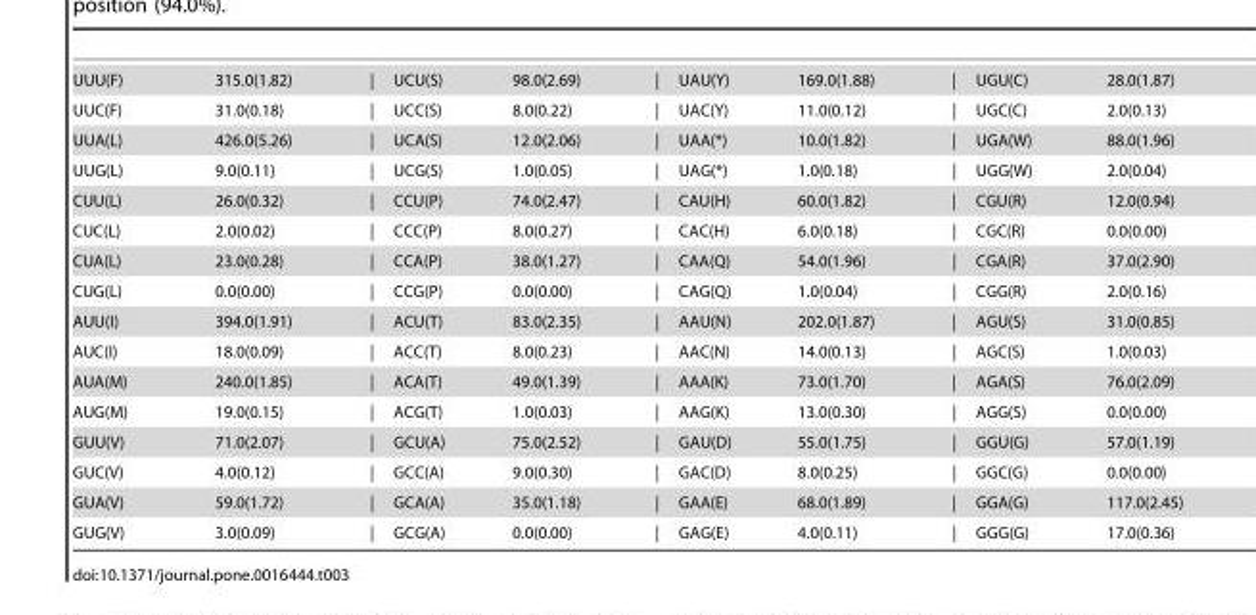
<table><tbody><tr><td>UUU(F)</td><td>315.0(1.82)</td><td>|</td><td>UCU(S)</td><td>98.0(2.69)</td><td>|</td><td>UAU(Y)</td><td>169.0(1.88)</td><td>|</td><td>UGU(C)</td><td>28.0(1.87)</td></tr><tr><td>UUC(F)</td><td>31.0(0.18)</td><td>|</td><td>UCC(S)</td><td>8.0(0.22)</td><td>|</td><td>UAC(Y)</td><td>11.0(0.12)</td><td>|</td><td>UGC(C)</td><td>2.0(0.13)</td></tr><tr><td>UUA(L)</td><td>426.0(5.26)</td><td>|</td><td>UCA(S)</td><td>12.0(2.06)</td><td>|</td><td>UAA(*)</td><td>10.0(1.82)</td><td>|</td><td>UGA(W)</td><td>88.0(1.96)</td></tr><tr><td>UUG(L)</td><td>9.0(0.11)</td><td>|</td><td>UCG(S)</td><td>1.0(0.05)</td><td>|</td><td>UAG(*)</td><td>1.0(0.18)</td><td>|</td><td>UGG(W)</td><td>2.0(0.04)</td></tr><tr><td>CUU(L)</td><td>26.0(0.32)</td><td>|</td><td>CCU(P)</td><td>74.0(2.47)</td><td>|</td><td>CAU(H)</td><td>60.0(1.82)</td><td>|</td><td>CGU(R)</td><td>12.0(0.94)</td></tr><tr><td>CUC(L)</td><td>2.0(0.02)</td><td>|</td><td>CCC(P)</td><td>8.0(0.27)</td><td>|</td><td>CAC(H)</td><td>6.0(0.18)</td><td>|</td><td>CGC(R)</td><td>0.0(0.00)</td></tr><tr><td>CUA(L)</td><td>23.0(0.28)</td><td>|</td><td>CCA(P)</td><td>38.0(1.27)</td><td>|</td><td>CAA(Q)</td><td>54.0(1.96)</td><td>|</td><td>CGA(R)</td><td>37.0(2.90)</td></tr><tr><td>CUG(L)</td><td>0.0(0.00)</td><td>|</td><td>CCG(P)</td><td>0.0(0.00)</td><td>|</td><td>CAG(Q)</td><td>1.0(0.04)</td><td>|</td><td>CGG(R)</td><td>2.0(0.16)</td></tr><tr><td>AUU(I)</td><td>394.0(1.91)</td><td>|</td><td>ACU(T)</td><td>83.0(2.35)</td><td>|</td><td>AAU(N)</td><td>202.0(1.87)</td><td>|</td><td>AGU(S)</td><td>31.0(0.85)</td></tr><tr><td>AUC(I)</td><td>18.0(0.09)</td><td>|</td><td>ACC(T)</td><td>8.0(0.23)</td><td>|</td><td>AAC(N)</td><td>14.0(0.13)</td><td>|</td><td>AGC(S)</td><td>1.0(0.03)</td></tr><tr><td>AUA(M)</td><td>240.0(1.85)</td><td>|</td><td>ACA(T)</td><td>49.0(1.39)</td><td>|</td><td>AAA(K)</td><td>73.0(1.70)</td><td>|</td><td>AGA(S)</td><td>76.0(2.09)</td></tr><tr><td>AUG(M)</td><td>19.0(0.15)</td><td>|</td><td>ACG(T)</td><td>1.0(0.03)</td><td>|</td><td>AAG(K)</td><td>13.0(0.30)</td><td>|</td><td>AGG(S)</td><td>0.0(0.00)</td></tr><tr><td>GUU(V)</td><td>71.0(2.07)</td><td>|</td><td>GCU(A)</td><td>75.0(2.52)</td><td>|</td><td>GAU(D)</td><td>55.0(1.75)</td><td>|</td><td>GGU(G)</td><td>57.0(1.19)</td></tr><tr><td>GUC(V)</td><td>4.0(0.12)</td><td>|</td><td>GCC(A)</td><td>9.0(0.30)</td><td>|</td><td>GAC(D)</td><td>8.0(0.25)</td><td>|</td><td>GGC(G)</td><td>0.0(0.00)</td></tr><tr><td>GUA(V)</td><td>59.0(1.72)</td><td>|</td><td>GCA(A)</td><td>35.0(1.18)</td><td>|</td><td>GAA(E)</td><td>68.0(1.89)</td><td>|</td><td>GGA(G)</td><td>117.0(2.45)</td></tr><tr><td>GUG(V)</td><td>3.0(0.09)</td><td>|</td><td>GCG(A)</td><td>0.0(0.00)</td><td>|</td><td>GAG(E)</td><td>4.0(0.11)</td><td>|</td><td>GGG(G)</td><td>17.0(0.36)</td></tr></tbody></table>